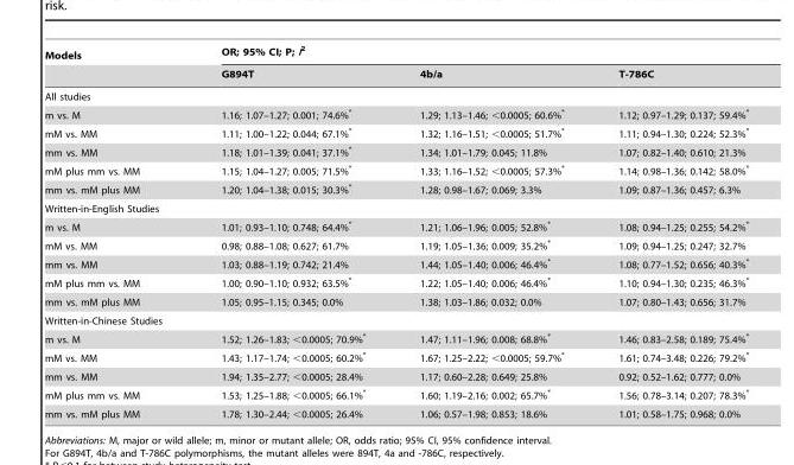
<table><thead><tr><td rowspan="2">Models</td><td colspan="3">OR; 95% CI; P; I<sup>2</sup></td></tr><tr><td>G894T</td><td>4b/a</td><td>T-786C</td></tr></thead><tbody><tr><td colspan="4">All studies</td></tr><tr><td>m vs. M</td><td>1.16; 1.07–1.27; 0.001; 74.6%*</td><td>1.29; 1.13–1.46; &lt;0.0005; 60.6%*</td><td>1.12; 0.97–1.29; 0.137; 59.4%*</td></tr><tr><td>mM vs. MM</td><td>1.11; 1.00–1.22; 0.044; 67.1%*</td><td>1.32; 1.16–1.51; &lt;0.0005; 51.7%*</td><td>1.11; 0.94–1.30; 0.224; 52.3%*</td></tr><tr><td>mm vs. MM</td><td>1.18; 1.01–1.39; 0.041; 37.1%*</td><td>1.34; 1.01–1.79; 0.045; 11.8%</td><td>1.07; 0.82–1.40; 0.610; 21.3%</td></tr><tr><td>mM plus mm vs. MM</td><td>1.15; 1.04–1.27; 0.005; 71.5%*</td><td>1.33; 1.16–1.52; &lt;0.0005; 57.3%*</td><td>1.14; 0.98–1.36; 0.142; 58.0%*</td></tr><tr><td>mm vs. mM plus MM</td><td>1.20; 1.04–1.38; 0.015; 30.3%*</td><td>1.28; 0.98–1.67; 0.069; 3.3%</td><td>1.09; 0.87–1.36; 0.457; 6.3%</td></tr><tr><td colspan="4">Written-in-English Studies</td></tr><tr><td>m vs. M</td><td>1.01; 0.93–1.10; 0.748; 64.4%*</td><td>1.21; 1.06–1.96; 0.005; 52.8%*</td><td>1.08; 0.94–1.25; 0.255; 54.2%*</td></tr><tr><td>mM vs. MM</td><td>0.98; 0.88–1.08; 0.627; 61.7%</td><td>1.19; 1.05–1.36; 0.009; 35.2%*</td><td>1.09; 0.94–1.25; 0.247; 32.7%</td></tr><tr><td>mm vs. MM</td><td>1.03; 0.88–1.19; 0.742; 21.4%</td><td>1.44; 1.05–1.40; 0.006; 46.4%*</td><td>1.08; 0.77–1.52; 0.656; 40.3%*</td></tr><tr><td>mM plus mm vs. MM</td><td>1.00; 0.90–1.10; 0.932; 63.5%*</td><td>1.22; 1.05–1.40; 0.006; 46.4%*</td><td>1.10; 0.94–1.30; 0.235; 46.3%*</td></tr><tr><td>mm vs. mM plus MM</td><td>1.05; 0.95–1.15; 0.345; 0.0%</td><td>1.38; 1.03–1.86; 0.032; 0.0%</td><td>1.07; 0.80–1.43; 0.656; 31.7%</td></tr><tr><td colspan="4">Written-in-Chinese Studies</td></tr><tr><td>m vs. M</td><td>1.52; 1.26–1.83; &lt;0.0005; 70.9%*</td><td>1.47; 1.11–1.96; 0.008; 68.8%*</td><td>1.46; 0.83–2.58; 0.189; 75.4%*</td></tr><tr><td>mM vs. MM</td><td>1.43; 1.17–1.74; &lt;0.0005; 60.2%*</td><td>1.67; 1.25–2.22; &lt;0.0005; 59.7%*</td><td>1.61; 0.74–3.48; 0.226; 79.2%*</td></tr><tr><td>mm vs. MM</td><td>1.94; 1.35–2.77; &lt;0.0005; 28.4%</td><td>1.17; 0.60–2.28; 0.649; 25.8%</td><td>0.92; 0.52–1.62; 0.777; 0.0%</td></tr><tr><td>mM plus mm vs. MM</td><td>1.53; 1.25–1.88; &lt;0.0005; 66.1%*</td><td>1.60; 1.19–2.16; 0.002; 65.7%*</td><td>1.56; 0.78–3.14; 0.207; 78.3%*</td></tr><tr><td>mm vs. mM plus MM</td><td>1.78; 1.30–2.44; &lt;0.0005; 26.4%</td><td>1.06; 0.57–1.98; 0.853; 18.6%</td><td>1.01; 0.58–1.75; 0.968; 0.0%</td></tr></tbody></table>